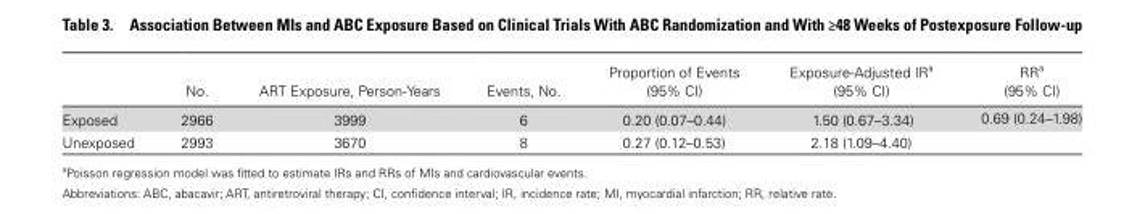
<table><thead><tr><td></td><td>No.</td><td>ART Exposure, Person-Years</td><td>Events, No.</td><td>Proportion of Events (95% CI)</td><td>Exposure-Adjusted IR<sup>a</sup> (95% CI)</td><td>RR<sup>a</sup> (95% CI)</td></tr></thead><tbody><tr><td>Exposed</td><td>2966</td><td>3999</td><td>6</td><td>0.20 (0.07–0.44)</td><td>1.50 (0.67–3.34)</td><td>0.69 (0.24–1.98)</td></tr><tr><td>Unexposed</td><td>2993</td><td>3670</td><td>8</td><td>0.27 (0.12–0.53)</td><td>2.18 (1.09–4.40)</td><td></td></tr></tbody></table>